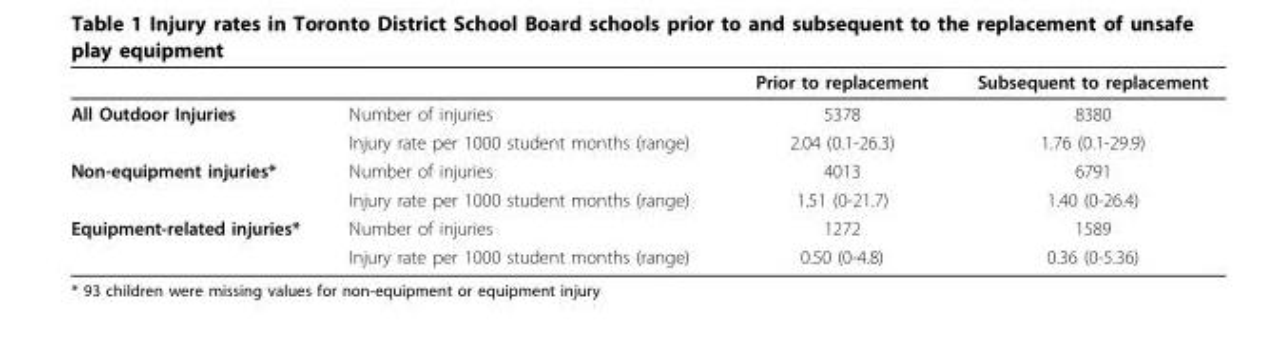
<table><thead><tr><td></td><td></td><td>Prior to replacement</td><td>Subsequent to replacement</td></tr></thead><tbody><tr><td rowspan="2">All Outdoor Injuries</td><td>Number of injuries</td><td>5378</td><td>8380</td></tr><tr><td>Injury rate per 1000 student months (range)</td><td>2.04 (0.1-26.3)</td><td>1.76 (0.1-29.9)</td></tr><tr><td rowspan="2">Non-equipment injuries*</td><td>Number of injuries</td><td>4013</td><td>6791</td></tr><tr><td>Injury rate per 1000 student months (range)</td><td>1.51 (0-21.7)</td><td>1.40 (0-26.4)</td></tr><tr><td rowspan="2">Equipment-related injuries*</td><td>Number of injuries</td><td>1272</td><td>1589</td></tr><tr><td>Injury rate per 1000 student months (range)</td><td>0.50 (0-4.8)</td><td>0.36 (0-5.36)</td></tr></tbody></table>